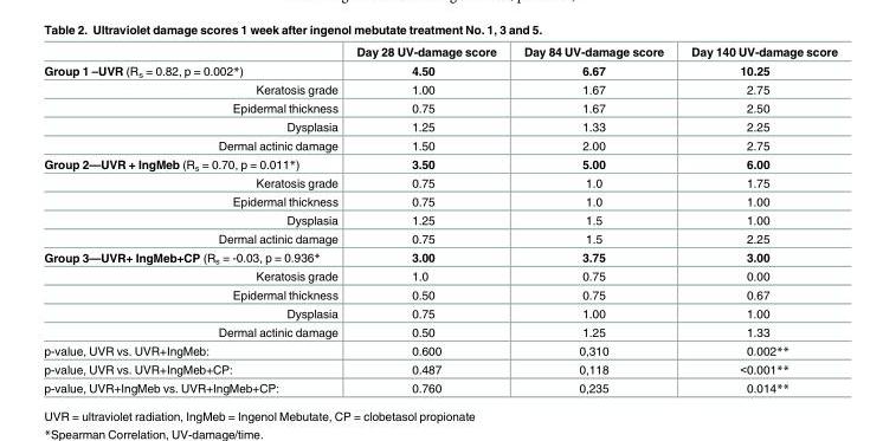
<table><thead><tr><td></td><td>Day 28 UV-damage score</td><td>Day 84 UV-damage score</td><td>Day 140 UV-damage score</td></tr></thead><tbody><tr><td>Group 1 –UVR (R<sub>s</sub> = 0.82, p = 0.002*)</td><td>4.50</td><td>6.67</td><td>10.25</td></tr><tr><td>Keratosis grade</td><td>1.00</td><td>1.67</td><td>2.75</td></tr><tr><td>Epidermal thickness</td><td>0.75</td><td>1.67</td><td>2.50</td></tr><tr><td>Dysplasia</td><td>1.25</td><td>1.33</td><td>2.25</td></tr><tr><td>Dermal actinic damage</td><td>1.50</td><td>2.00</td><td>2.75</td></tr><tr><td>Group 2—UVR + IngMeb (R<sub>s</sub> = 0.70, p = 0.011*)</td><td>3.50</td><td>5.00</td><td>6.00</td></tr><tr><td>Keratosis grade</td><td>0.75</td><td>1.0</td><td>1.75</td></tr><tr><td>Epidermal thickness</td><td>0.75</td><td>1.0</td><td>1.00</td></tr><tr><td>Dysplasia</td><td>1.25</td><td>1.5</td><td>1.00</td></tr><tr><td>Dermal actinic damage</td><td>0.75</td><td>1.5</td><td>2.25</td></tr><tr><td>Group 3—UVR+ IngMeb+CP (R<sub>s</sub> = -0.03, p = 0.936*</td><td>3.00</td><td>3.75</td><td>3.00</td></tr><tr><td>Keratosis grade</td><td>1.0</td><td>0.75</td><td>0.00</td></tr><tr><td>Epidermal thickness</td><td>0.50</td><td>0.75</td><td>0.67</td></tr><tr><td>Dysplasia</td><td>0.75</td><td>1.00</td><td>1.00</td></tr><tr><td>Dermal actinic damage</td><td>0.50</td><td>1.25</td><td>1.33</td></tr><tr><td>p-value, UVR vs. UVR+IngMeb:</td><td>0.600</td><td>0,310</td><td>0.002**</td></tr><tr><td>p-value, UVR vs. UVR+IngMeb+CP:</td><td>0.487</td><td>0,118</td><td>&lt;0.001**</td></tr><tr><td>p-value, UVR+IngMeb vs. UVR+IngMeb+CP:</td><td>0.760</td><td>0,235</td><td>0.014**</td></tr></tbody></table>